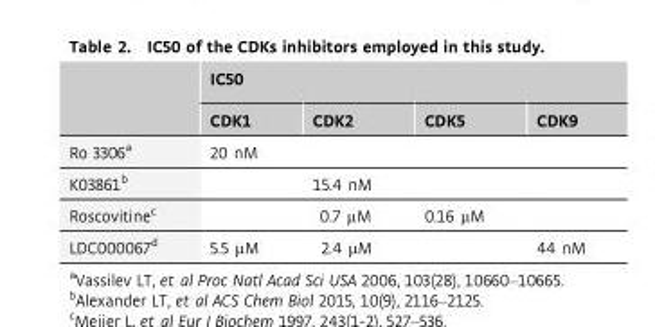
<table><thead><tr><td rowspan="2"></td><td colspan="4">IC50</td></tr><tr><td>CDK1</td><td>CDK2</td><td>CDK5</td><td>CDK9</td></tr></thead><tbody><tr><td>Ro 3306<sup>a</sup></td><td>20 nM</td><td></td><td></td><td></td></tr><tr><td>K03861<sup>b</sup></td><td></td><td>15.4 nM</td><td></td><td></td></tr><tr><td>Roscovitine<sup>c</sup></td><td></td><td>0.7 μM</td><td>0.16 μM</td><td></td></tr><tr><td>LDC000067<sup>d</sup></td><td>5.5 μM</td><td>2.4 μM</td><td></td><td>44 nM</td></tr></tbody></table>